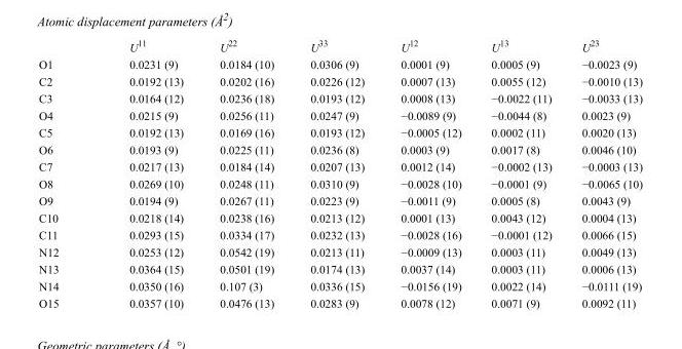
<table><thead><tr><td></td><td>U<sup>11</sup></td><td>U<sup>22</sup></td><td>U<sup>33</sup></td><td>U<sup>12</sup></td><td>U<sup>13</sup></td><td>U<sup>23</sup></td></tr></thead><tbody><tr><td>O1</td><td>0.0231 (9)</td><td>0.0184 (10)</td><td>0.0306 (9)</td><td>0.0001 (9)</td><td>0.0005 (9)</td><td>−0.0023 (9)</td></tr><tr><td>C2</td><td>0.0192 (13)</td><td>0.0202 (16)</td><td>0.0226 (12)</td><td>0.0007 (13)</td><td>0.0055 (12)</td><td>−0.0010 (13)</td></tr><tr><td>C3</td><td>0.0164 (12)</td><td>0.0236 (18)</td><td>0.0193 (12)</td><td>0.0008 (13)</td><td>−0.0022 (11)</td><td>−0.0033 (13)</td></tr><tr><td>O4</td><td>0.0215 (9)</td><td>0.0256 (11)</td><td>0.0247 (9)</td><td>−0.0089 (9)</td><td>−0.0044 (8)</td><td>0.0023 (9)</td></tr><tr><td>C5</td><td>0.0192 (13)</td><td>0.0169 (16)</td><td>0.0193 (12)</td><td>−0.0005 (12)</td><td>0.0002 (11)</td><td>0.0020 (13)</td></tr><tr><td>O6</td><td>0.0193 (9)</td><td>0.0225 (11)</td><td>0.0236 (8)</td><td>0.0003 (9)</td><td>0.0017 (8)</td><td>0.0046 (10)</td></tr><tr><td>C7</td><td>0.0217 (13)</td><td>0.0184 (14)</td><td>0.0207 (13)</td><td>0.0012 (14)</td><td>−0.0002 (13)</td><td>−0.0003 (13)</td></tr><tr><td>O8</td><td>0.0269 (10)</td><td>0.0248 (11)</td><td>0.0310 (9)</td><td>−0.0028 (10)</td><td>−0.0001 (9)</td><td>−0.0065 (10)</td></tr><tr><td>O9</td><td>0.0194 (9)</td><td>0.0267 (11)</td><td>0.0223 (9)</td><td>−0.0011 (9)</td><td>0.0005 (8)</td><td>0.0043 (9)</td></tr><tr><td>C10</td><td>0.0218 (14)</td><td>0.0238 (16)</td><td>0.0213 (12)</td><td>0.0001 (13)</td><td>0.0043 (12)</td><td>0.0004 (13)</td></tr><tr><td>C11</td><td>0.0293 (15)</td><td>0.0334 (17)</td><td>0.0232 (13)</td><td>−0.0028 (16)</td><td>−0.0001 (12)</td><td>0.0066 (15)</td></tr><tr><td>N12</td><td>0.0253 (12)</td><td>0.0542 (19)</td><td>0.0213 (11)</td><td>−0.0009 (13)</td><td>0.0003 (11)</td><td>0.0049 (13)</td></tr><tr><td>N13</td><td>0.0364 (15)</td><td>0.0501 (19)</td><td>0.0174 (13)</td><td>0.0037 (14)</td><td>0.0003 (11)</td><td>0.0006 (13)</td></tr><tr><td>N14</td><td>0.0350 (16)</td><td>0.107 (3)</td><td>0.0336 (15)</td><td>−0.0156 (19)</td><td>0.0022 (14)</td><td>−0.0111 (19)</td></tr><tr><td>O15</td><td>0.0357 (10)</td><td>0.0476 (13)</td><td>0.0283 (9)</td><td>0.0078 (12)</td><td>0.0071 (9)</td><td>0.0092 (11)</td></tr></tbody></table>